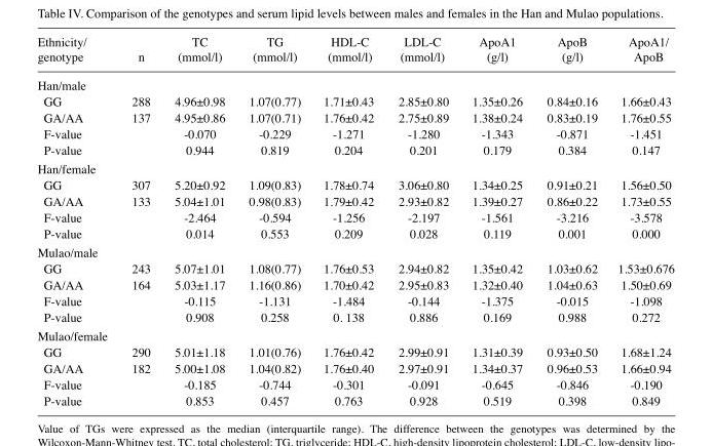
<table><thead><tr><td>Ethnicity/ genotype</td><td>n</td><td>TC (mmol/l)</td><td>TG (mmol/l)</td><td>HDL-C (mmol/l)</td><td>LDL-C (mmol/l)</td><td>ApoA1 (g/l)</td><td>ApoB (g/l)</td><td>ApoA1/ ApoB</td></tr></thead><tbody><tr><td colspan="9">Han/male</td></tr><tr><td>GG</td><td>288</td><td>4.96±0.98</td><td>1.07(0.77)</td><td>1.71±0.43</td><td>2.85±0.80</td><td>1.35±0.26</td><td>0.84±0.16</td><td>1.66±0.43</td></tr><tr><td>GA/AA</td><td>137</td><td>4.95±0.86</td><td>1.07(0.71)</td><td>1.76±0.42</td><td>2.75±0.89</td><td>1.38±0.24</td><td>0.83±0.19</td><td>1.76±0.55</td></tr><tr><td>F-value</td><td></td><td>-0.070</td><td>-0.229</td><td>-1.271</td><td>-1.280</td><td>-1.343</td><td>-0.871</td><td>-1.451</td></tr><tr><td>P-value</td><td></td><td>0.944</td><td>0.819</td><td>0.204</td><td>0.201</td><td>0.179</td><td>0.384</td><td>0.147</td></tr><tr><td colspan="9">Han/female</td></tr><tr><td>GG</td><td>307</td><td>5.20±0.92</td><td>1.09(0.83)</td><td>1.78±0.74</td><td>3.06±0.80</td><td>1.34±0.25</td><td>0.91±0.21</td><td>1.56±0.50</td></tr><tr><td>GA/AA</td><td>133</td><td>5.04±1.01</td><td>0.98(0.83)</td><td>1.79±0.42</td><td>2.93±0.82</td><td>1.39±0.27</td><td>0.86±0.22</td><td>1.73±0.55</td></tr><tr><td>F-value</td><td></td><td>-2.464</td><td>-0.594</td><td>-1.256</td><td>-2.197</td><td>-1.561</td><td>-3.216</td><td>-3.578</td></tr><tr><td>P-value</td><td></td><td>0.014</td><td>0.553</td><td>0.209</td><td>0.028</td><td>0.119</td><td>0.001</td><td>0.000</td></tr><tr><td colspan="9">Mulao/male</td></tr><tr><td>GG</td><td>243</td><td>5.07±1.01</td><td>1.08(0.77)</td><td>1.76±0.53</td><td>2.94±0.82</td><td>1.35±0.42</td><td>1.03±0.62</td><td>1.53±0.676</td></tr><tr><td>GA/AA</td><td>164</td><td>5.03±1.17</td><td>1.16(0.86)</td><td>1.70±0.42</td><td>2.95±0.83</td><td>1.32±0.40</td><td>1.04±0.63</td><td>1.50±0.69</td></tr><tr><td>F-value</td><td></td><td>-0.115</td><td>-1.131</td><td>-1.484</td><td>-0.144</td><td>-1.375</td><td>-0.015</td><td>-1.098</td></tr><tr><td>P-value</td><td></td><td>0.908</td><td>0.258</td><td>0. 138</td><td>0.886</td><td>0.169</td><td>0.988</td><td>0.272</td></tr><tr><td colspan="9">Mulao/female</td></tr><tr><td>GG</td><td>290</td><td>5.01±1.18</td><td>1.01(0.76)</td><td>1.76±0.42</td><td>2.99±0.91</td><td>1.31±0.39</td><td>0.93±0.50</td><td>1.68±1.24</td></tr><tr><td>GA/AA</td><td>182</td><td>5.00±1.08</td><td>1.04(0.82)</td><td>1.76±0.40</td><td>2.97±0.91</td><td>1.34±0.37</td><td>0.96±0.53</td><td>1.66±0.94</td></tr><tr><td>F-value</td><td></td><td>-0.185</td><td>-0.744</td><td>-0.301</td><td>-0.091</td><td>-0.645</td><td>-0.846</td><td>-0.190</td></tr><tr><td>P-value</td><td></td><td>0.853</td><td>0.457</td><td>0.763</td><td>0.928</td><td>0.519</td><td>0.398</td><td>0.849</td></tr></tbody></table>